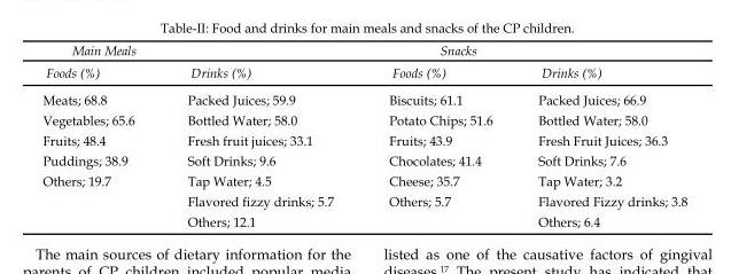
<table><thead><tr><td colspan="2">Main Meals</td><td colspan="2">Snacks</td></tr><tr><td>Foods (%)</td><td>Drinks (%)</td><td>Foods (%)</td><td>Drinks (%)</td></tr></thead><tbody><tr><td>Meats; 68.8</td><td>Packed Juices; 59.9</td><td>Biscuits; 61.1</td><td>Packed Juices; 66.9</td></tr><tr><td>Vegetables; 65.6</td><td>Bottled Water; 58.0</td><td>Potato Chips; 51.6</td><td>Bottled Water; 58.0</td></tr><tr><td>Fruits; 48.4</td><td>Fresh fruit juices; 33.1</td><td>Fruits; 43.9</td><td>Fresh Fruit Juices; 36.3</td></tr><tr><td>Puddings; 38.9</td><td>Soft Drinks; 9.6</td><td>Chocolates; 41.4</td><td>Soft Drinks; 7.6</td></tr><tr><td rowspan="3">Others; 19.7</td><td>Tap Water; 4.5</td><td>Cheese; 35.7</td><td>Tap Water; 3.2</td></tr><tr><td>Flavored fizzy drinks; 5.7</td><td>Others; 5.7</td><td>Flavored Fizzy drinks; 3.8</td></tr><tr><td>Others; 12.1</td><td></td><td>Others; 6.4</td></tr></tbody></table>